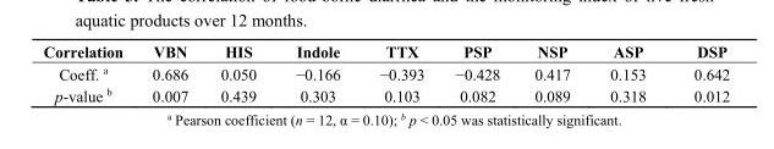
<table><thead><tr><td>Correlation</td><td>VBN</td><td>HIS</td><td>Indole</td><td>TTX</td><td>PSP</td><td>NSP</td><td>ASP</td><td>DSP</td></tr></thead><tbody><tr><td>Coeff. <sup>a</sup></td><td>0.686</td><td>0.050</td><td>−0.166</td><td>−0.393</td><td>−0.428</td><td>0.417</td><td>0.153</td><td>0.642</td></tr><tr><td>p-value <sup>b</sup></td><td>0.007</td><td>0.439</td><td>0.303</td><td>0.103</td><td>0.082</td><td>0.089</td><td>0.318</td><td>0.012</td></tr></tbody></table>